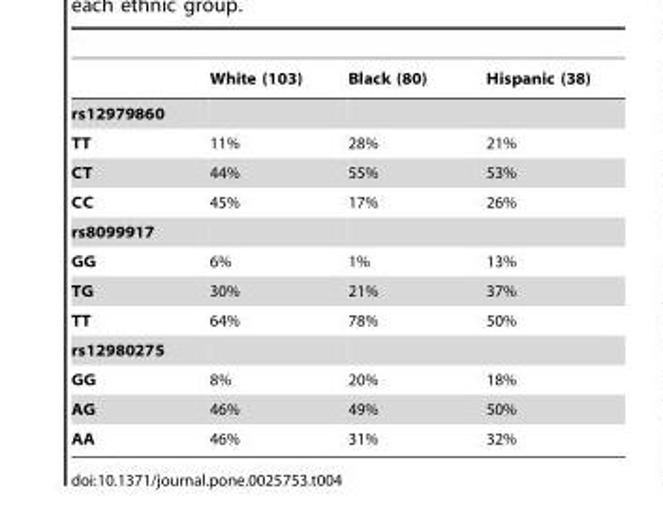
<table><thead><tr><td></td><td>White (103)</td><td>Black (80)</td><td>Hispanic (38)</td></tr></thead><tbody><tr><td colspan="4">rs12979860</td></tr><tr><td>TT</td><td>11%</td><td>28%</td><td>21%</td></tr><tr><td>CT</td><td>44%</td><td>55%</td><td>53%</td></tr><tr><td>CC</td><td>45%</td><td>17%</td><td>26%</td></tr><tr><td colspan="4">rs8099917</td></tr><tr><td>GG</td><td>6%</td><td>1%</td><td>13%</td></tr><tr><td>TG</td><td>30%</td><td>21%</td><td>37%</td></tr><tr><td>TT</td><td>64%</td><td>78%</td><td>50%</td></tr><tr><td colspan="4">rs12980275</td></tr><tr><td>GG</td><td>8%</td><td>20%</td><td>18%</td></tr><tr><td>AG</td><td>46%</td><td>49%</td><td>50%</td></tr><tr><td>AA</td><td>46%</td><td>31%</td><td>32%</td></tr></tbody></table>